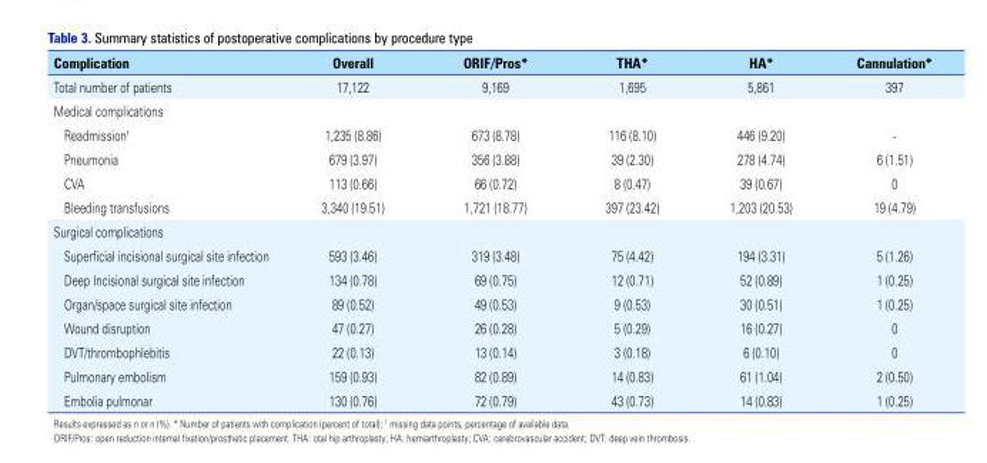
<table><thead><tr><td>Complication</td><td>Overall</td><td>ORIF/Pros*</td><td>THA*</td><td>HA*</td><td>Cannulation*</td></tr></thead><tbody><tr><td>Total number of patients</td><td>17,122</td><td>9,169</td><td>1,695</td><td>5,861</td><td>397</td></tr><tr><td colspan="6">Medical complications</td></tr><tr><td>Readmission<sup>†</sup></td><td>1,235 (8.86)</td><td>673 (8.78)</td><td>116 (8.10)</td><td>446 (9.20)</td><td>-</td></tr><tr><td>Pneumonia</td><td>679 (3.97)</td><td>356 (3.88)</td><td>39 (2.30)</td><td>278 (4.74)</td><td>6 (1.51)</td></tr><tr><td>CVA</td><td>113 (0.66)</td><td>66 (0.72)</td><td>8 (0.47)</td><td>39 (0.67)</td><td>0</td></tr><tr><td>Bleeding transfusions</td><td>3,340 (19.51)</td><td>1,721 (18.77)</td><td>397 (23.42)</td><td>1,203 (20.53)</td><td>19 (4.79)</td></tr><tr><td colspan="6">Surgical complications</td></tr><tr><td>Superficial incisional surgical site infection</td><td>593 (3.46)</td><td>319 (3.48)</td><td>75 (4.42)</td><td>194 (3.31)</td><td>5 (1.26)</td></tr><tr><td>Deep Incisional surgical site infection</td><td>134 (0.78)</td><td>69 (0.75)</td><td>12 (0.71)</td><td>52 (0.89)</td><td>1 (0.25)</td></tr><tr><td>Organ/space surgical site infection</td><td>89 (0.52)</td><td>49 (0.53)</td><td>9 (0.53)</td><td>30 (0.51)</td><td>1 (0.25)</td></tr><tr><td>Wound disruption</td><td>47 (0.27)</td><td>26 (0.28)</td><td>5 (0.29)</td><td>16 (0.27)</td><td>0</td></tr><tr><td>DVT/thrombophlebitis</td><td>22 (0.13)</td><td>13 (0.14)</td><td>3 (0.18)</td><td>6 (0.10)</td><td>0</td></tr><tr><td>Pulmonary embolism</td><td>159 (0.93)</td><td>82 (0.89)</td><td>14 (0.83)</td><td>61 (1.04)</td><td>2 (0.50)</td></tr><tr><td>Embolia pulmonar</td><td>130 (0.76)</td><td>72 (0.79)</td><td>43 (0.73)</td><td>14 (0.83)</td><td>1 (0.25)</td></tr></tbody></table>